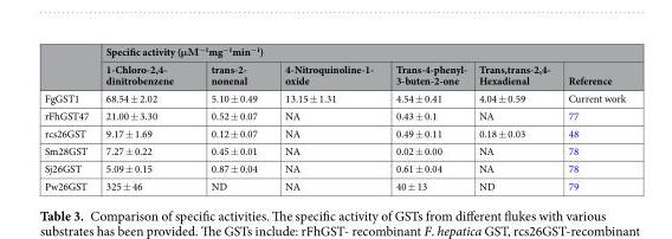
<table><thead><tr><td rowspan="2"></td><td colspan="6">Specific activity (μΜ<sup>−1</sup>mg<sup>−1</sup>min<sup>−1</sup>)</td></tr><tr><td>1-Chloro-2,4- dinitrobenzene</td><td>trans-2- nonenal</td><td>4-Nitroquinoline-1- oxide</td><td>Trans-4-phenyl- 3-buten-2-one</td><td>Trans,trans-2,4- Hexadienal</td><td>Reference</td></tr></thead><tbody><tr><td>FgGST1</td><td>68.54 ± 2.02</td><td>5.10 ± 0.49</td><td>13.15 ± 1.31</td><td>4.54 ± 0.41</td><td>4.04 ± 0.59</td><td>Current work</td></tr><tr><td>rFhGST47</td><td>21.00 ± 3.30</td><td>0.52 ± 0.07</td><td>NA</td><td>0.43 ± 0.1</td><td>NA</td><td>77</td></tr><tr><td>rcs26GST</td><td>9.17 ± 1.69</td><td>0.12 ± 0.07</td><td>NA</td><td>0.49 ± 0.11</td><td>0.18 ± 0.03</td><td>48</td></tr><tr><td>Sm28GST</td><td>7.27 ± 0.22</td><td>0.45 ± 0.01</td><td>NA</td><td>0.02 ± 0.00</td><td>NA</td><td>78</td></tr><tr><td>Sj26GST</td><td>5.09 ± 0.15</td><td>0.87 ± 0.04</td><td>NA</td><td>0.61 ± 0.04</td><td>NA</td><td>78</td></tr><tr><td>Pw26GST</td><td>325 ± 46</td><td>ND</td><td>NA</td><td>40 ± 13</td><td>ND</td><td>79</td></tr></tbody></table>